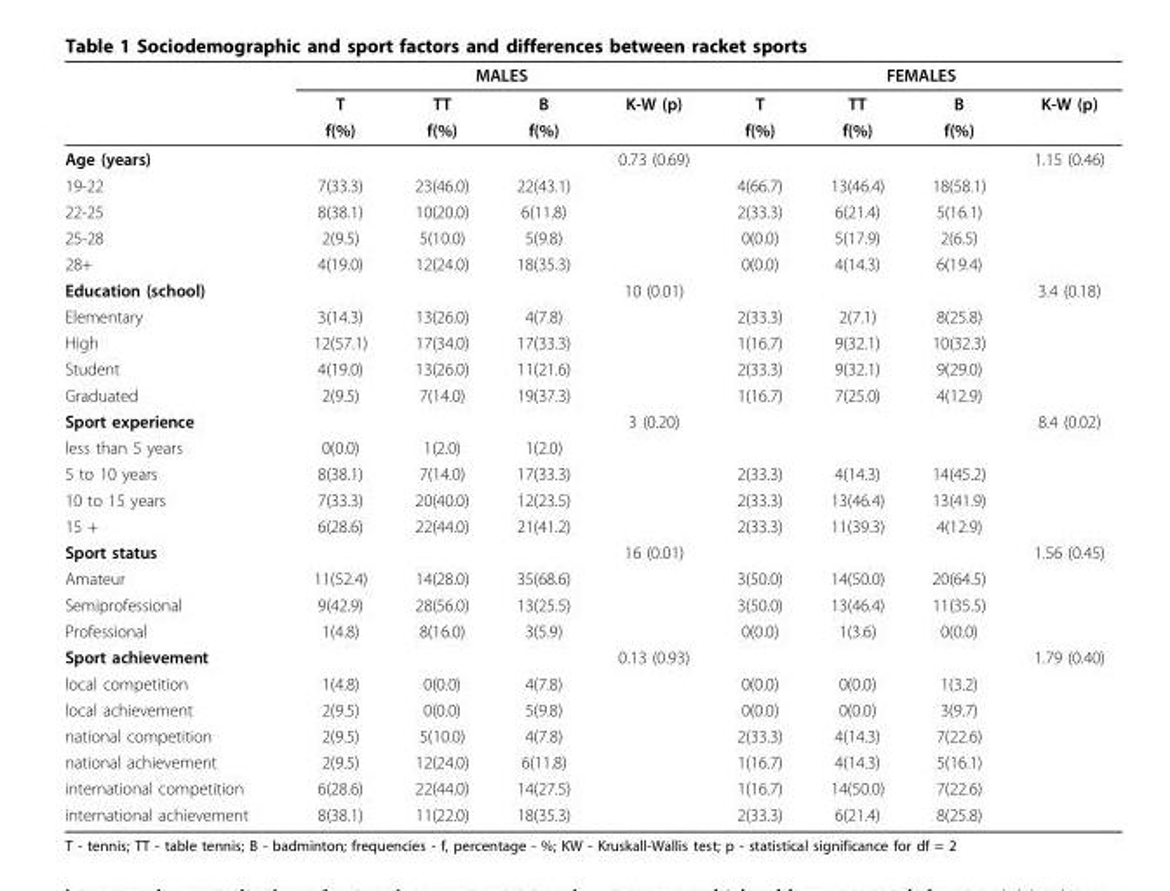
<table><thead><tr><td rowspan="3"></td><td colspan="4">MALES</td><td colspan="4">FEMALES</td></tr><tr><td rowspan="2">T f(%)</td><td rowspan="2">TT f(%)</td><td rowspan="2">B f(%)</td><td rowspan="2">K-W (p)</td><td rowspan="2">T f(%)</td><td rowspan="2">TT f(%)</td><td rowspan="2">B f(%)</td><td rowspan="2">K-W (p)</td></tr><tr></tr></thead><tbody><tr><td>Age (years)</td><td></td><td></td><td></td><td>0.73 (0.69)</td><td></td><td></td><td></td><td>1.15 (0.46)</td></tr><tr><td>19-22</td><td>7(33.3)</td><td>23(46.0)</td><td>22(43.1)</td><td></td><td>4(66.7)</td><td>13(46.4)</td><td>18(58.1)</td><td></td></tr><tr><td>22-25</td><td>8(38.1)</td><td>10(20.0)</td><td>6(11.8)</td><td></td><td>2(33.3)</td><td>6(21.4)</td><td>5(16.1)</td><td></td></tr><tr><td>25-28</td><td>2(9.5)</td><td>5(10.0)</td><td>5(9.8)</td><td></td><td>0(0.0)</td><td>5(17.9)</td><td>2(6.5)</td><td></td></tr><tr><td>28+</td><td>4(19.0)</td><td>12(24.0)</td><td>18(35.3)</td><td></td><td>0(0.0)</td><td>4(14.3)</td><td>6(19.4)</td><td></td></tr><tr><td>Education (school)</td><td></td><td></td><td></td><td>10 (0.01)</td><td></td><td></td><td></td><td>3.4 (0.18)</td></tr><tr><td>Elementary</td><td>3(14.3)</td><td>13(26.0)</td><td>4(7.8)</td><td></td><td>2(33.3)</td><td>2(7.1)</td><td>8(25.8)</td><td></td></tr><tr><td>High</td><td>12(57.1)</td><td>17(34.0)</td><td>17(33.3)</td><td></td><td>1(16.7)</td><td>9(32.1)</td><td>10(32.3)</td><td></td></tr><tr><td>Student</td><td>4(19.0)</td><td>13(26.0)</td><td>11(21.6)</td><td></td><td>2(33.3)</td><td>9(32.1)</td><td>9(29.0)</td><td></td></tr><tr><td>Graduated</td><td>2(9.5)</td><td>7(14.0)</td><td>19(37.3)</td><td></td><td>1(16.7)</td><td>7(25.0)</td><td>4(12.9)</td><td></td></tr><tr><td>Sport experience</td><td></td><td></td><td></td><td>3 (0.20)</td><td></td><td></td><td></td><td>8.4 (0.02)</td></tr><tr><td>less than 5 years</td><td>0(0.0)</td><td>1(2.0)</td><td>1(2.0)</td><td></td><td></td><td></td><td></td><td></td></tr><tr><td>5 to 10 years</td><td>8(38.1)</td><td>7(14.0)</td><td>17(33.3)</td><td></td><td>2(33.3)</td><td>4(14.3)</td><td>14(45.2)</td><td></td></tr><tr><td>10 to 15 years</td><td>7(33.3)</td><td>20(40.0)</td><td>12(23.5)</td><td></td><td>2(33.3)</td><td>13(46.4)</td><td>13(41.9)</td><td></td></tr><tr><td>15 +</td><td>6(28.6)</td><td>22(44.0)</td><td>21(41.2)</td><td></td><td>2(33.3)</td><td>11(39.3)</td><td>4(12.9)</td><td></td></tr><tr><td>Sport status</td><td></td><td></td><td></td><td>16 (0.01)</td><td></td><td></td><td></td><td>1.56 (0.45)</td></tr><tr><td>Amateur</td><td>11(52.4)</td><td>14(28.0)</td><td>35(68.6)</td><td></td><td>3(50.0)</td><td>14(50.0)</td><td>20(64.5)</td><td></td></tr><tr><td>Semiprofessional</td><td>9(42.9)</td><td>28(56.0)</td><td>13(25.5)</td><td></td><td>3(50.0)</td><td>13(46.4)</td><td>11(35.5)</td><td></td></tr><tr><td>Professional</td><td>1(4.8)</td><td>8(16.0)</td><td>3(5.9)</td><td></td><td>0(0.0)</td><td>1(3.6)</td><td>0(0.0)</td><td></td></tr><tr><td>Sport achievement</td><td></td><td></td><td></td><td>0.13 (0.93)</td><td></td><td></td><td></td><td>1.79 (0.40)</td></tr><tr><td>local competition</td><td>1(4.8)</td><td>0(0.0)</td><td>4(7.8)</td><td></td><td>0(0.0)</td><td>0(0.0)</td><td>1(3.2)</td><td></td></tr><tr><td>local achievement</td><td>2(9.5)</td><td>0(0.0)</td><td>5(9.8)</td><td></td><td>0(0.0)</td><td>0(0.0)</td><td>3(9.7)</td><td></td></tr><tr><td>national competition</td><td>2(9.5)</td><td>5(10.0)</td><td>4(7.8)</td><td></td><td>2(33.3)</td><td>4(14.3)</td><td>7(22.6)</td><td></td></tr><tr><td>national achievement</td><td>2(9.5)</td><td>12(24.0)</td><td>6(11.8)</td><td></td><td>1(16.7)</td><td>4(14.3)</td><td>5(16.1)</td><td></td></tr><tr><td>international competition</td><td>6(28.6)</td><td>22(44.0)</td><td>14(27.5)</td><td></td><td>1(16.7)</td><td>14(50.0)</td><td>7(22.6)</td><td></td></tr><tr><td>international achievement</td><td>8(38.1)</td><td>11(22.0)</td><td>18(35.3)</td><td></td><td>2(33.3)</td><td>6(21.4)</td><td>8(25.8)</td><td></td></tr></tbody></table>